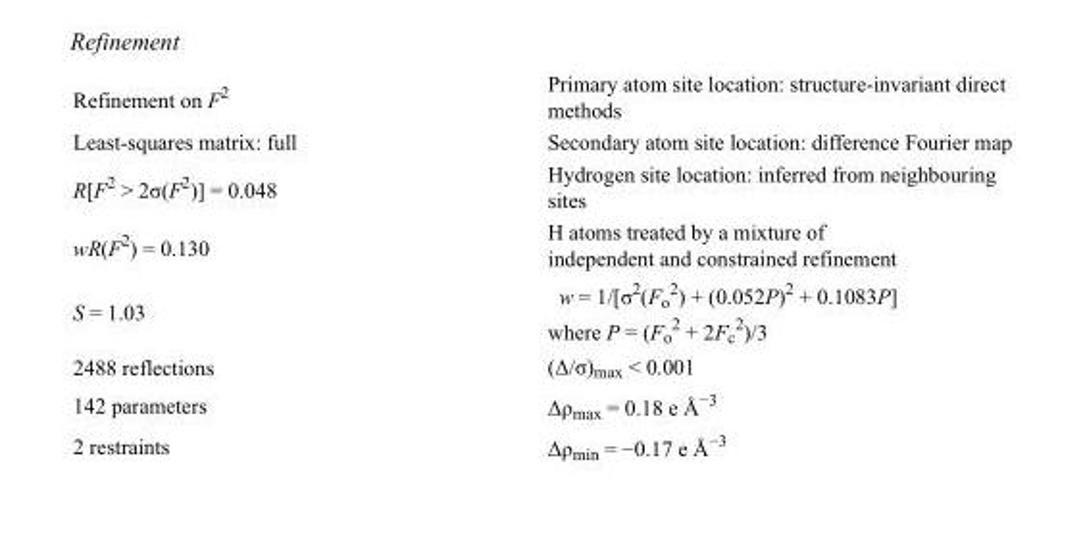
<table><tbody><tr><td>Refinement on F<sup>2</sup></td><td>Primary atom site location: structure-invariant direct methods</td></tr><tr><td>Least-squares matrix: full</td><td>Secondary atom site location: difference Fourier map</td></tr><tr><td>R[F<sup>2</sup> &gt; 2σ(F<sup>2</sup>)] = 0.048</td><td>Hydrogen site location: inferred from neighbouring sites</td></tr><tr><td>wR(F<sup>2</sup>) = 0.130</td><td>H atoms treated by a mixture of independent and constrained refinement</td></tr><tr><td>S = 1.03</td><td>w = 1/[σ<sup>2</sup>(F<sub>o</sub> <sup>2</sup>) + (0.052P)<sup>2</sup> + 0.1083P] where P = (F<sub>o</sub> <sup>2</sup> + 2F<sub>c</sub> <sup>2</sup>)/3</td></tr><tr><td>2488 reflections</td><td>(Δ/σ)<sub>max</sub> &lt; 0.001</td></tr><tr><td>142 parameters</td><td>Δρ<sub>max</sub> = 0.18 e Å<sup>−3</sup></td></tr><tr><td>2 restraints</td><td>Δρ<sub>min</sub> = −0.17 e Å<sup>−3</sup></td></tr></tbody></table>